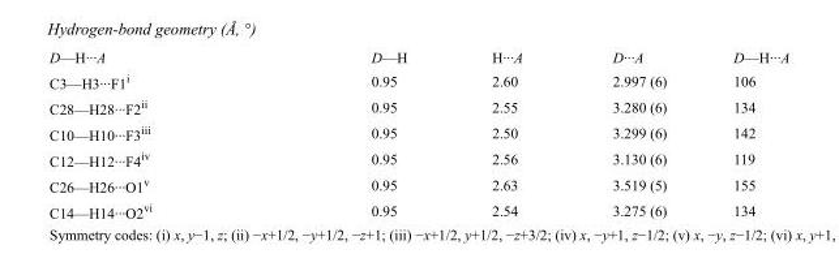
<table><tbody><tr><td>D—H···A</td><td>D—H</td><td>H···A</td><td>D···A</td><td>D—H···A</td></tr><tr><td>C3—H3···F1<sup>i</sup></td><td>0.95</td><td>2.60</td><td>2.997 (6)</td><td>106</td></tr><tr><td>C28—H28···F2<sup>ii</sup></td><td>0.95</td><td>2.55</td><td>3.280 (6)</td><td>134</td></tr><tr><td>C10—H10···F3<sup>iii</sup></td><td>0.95</td><td>2.50</td><td>3.299 (6)</td><td>142</td></tr><tr><td>C12—H12···F4<sup>iv</sup></td><td>0.95</td><td>2.56</td><td>3.130 (6)</td><td>119</td></tr><tr><td>C26—H26···O1<sup>v</sup></td><td>0.95</td><td>2.63</td><td>3.519 (5)</td><td>155</td></tr><tr><td>C14—H14···O2<sup>vi</sup></td><td>0.95</td><td>2.54</td><td>3.275 (6)</td><td>134</td></tr></tbody></table>